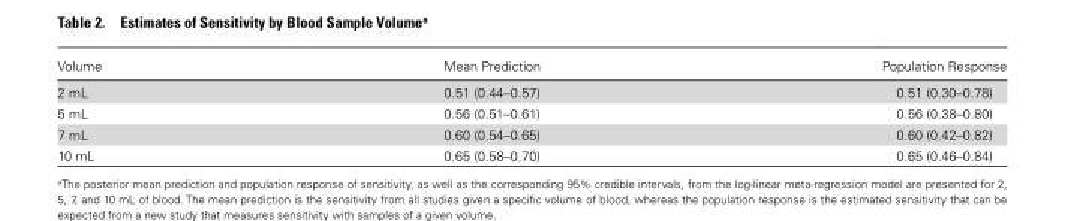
<table><thead><tr><td>Volume</td><td>Mean Prediction</td><td>Population Response</td></tr></thead><tbody><tr><td>2 mL</td><td>0.51 (0.44–0.57)</td><td>0.51 (0.30–0.78)</td></tr><tr><td>5 mL</td><td>0.56 (0.51–0.61)</td><td>0.56 (0.38–0.80)</td></tr><tr><td>7 mL</td><td>0.60 (0.54–0.65)</td><td>0.60 (0.42–0.82)</td></tr><tr><td>10 mL</td><td>0.65 (0.58–0.70)</td><td>0.65 (0.46–0.84)</td></tr></tbody></table>